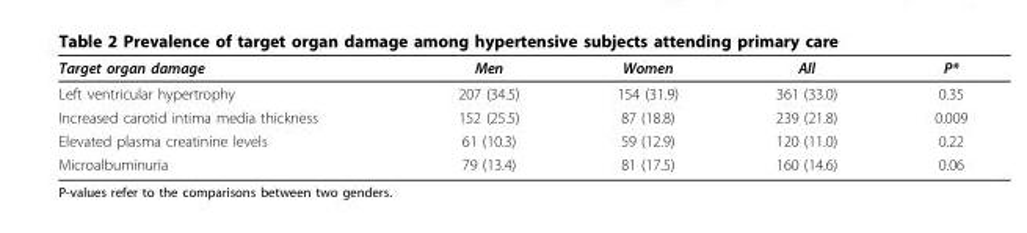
<table><thead><tr><td>Target organ damage</td><td>Men</td><td>Women</td><td>All</td><td>P*</td></tr></thead><tbody><tr><td>Left ventricular hypertrophy</td><td>207 (34.5)</td><td>154 (31.9)</td><td>361 (33.0)</td><td>0.35</td></tr><tr><td>Increased carotid intima media thickness</td><td>152 (25.5)</td><td>87 (18.8)</td><td>239 (21.8)</td><td>0.009</td></tr><tr><td>Elevated plasma creatinine levels</td><td>61 (10.3)</td><td>59 (12.9)</td><td>120 (11.0)</td><td>0.22</td></tr><tr><td>Microalbuminuria</td><td>79 (13.4)</td><td>81 (17.5)</td><td>160 (14.6)</td><td>0.06</td></tr></tbody></table>